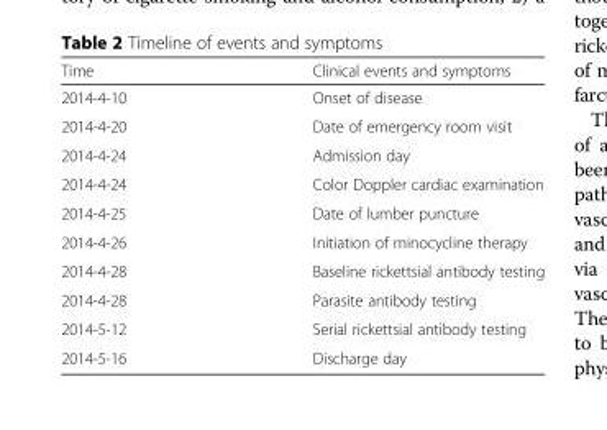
<table><thead><tr><td>Time</td><td>Clinical events and symptoms</td></tr></thead><tbody><tr><td>2014-4-10</td><td>Onset of disease</td></tr><tr><td>2014-4-20</td><td>Date of emergency room visit</td></tr><tr><td>2014-4-24</td><td>Admission day</td></tr><tr><td>2014-4-24</td><td>Color Doppler cardiac examination</td></tr><tr><td>2014-4-25</td><td>Date of lumber puncture</td></tr><tr><td>2014-4-26</td><td>Initiation of minocycline therapy</td></tr><tr><td>2014-4-28</td><td>Baseline rickettsial antibody testing</td></tr><tr><td>2014-4-28</td><td>Parasite antibody testing</td></tr><tr><td>2014-5-12</td><td>Serial rickettsial antibody testing</td></tr><tr><td>2014-5-16</td><td>Discharge day</td></tr></tbody></table>